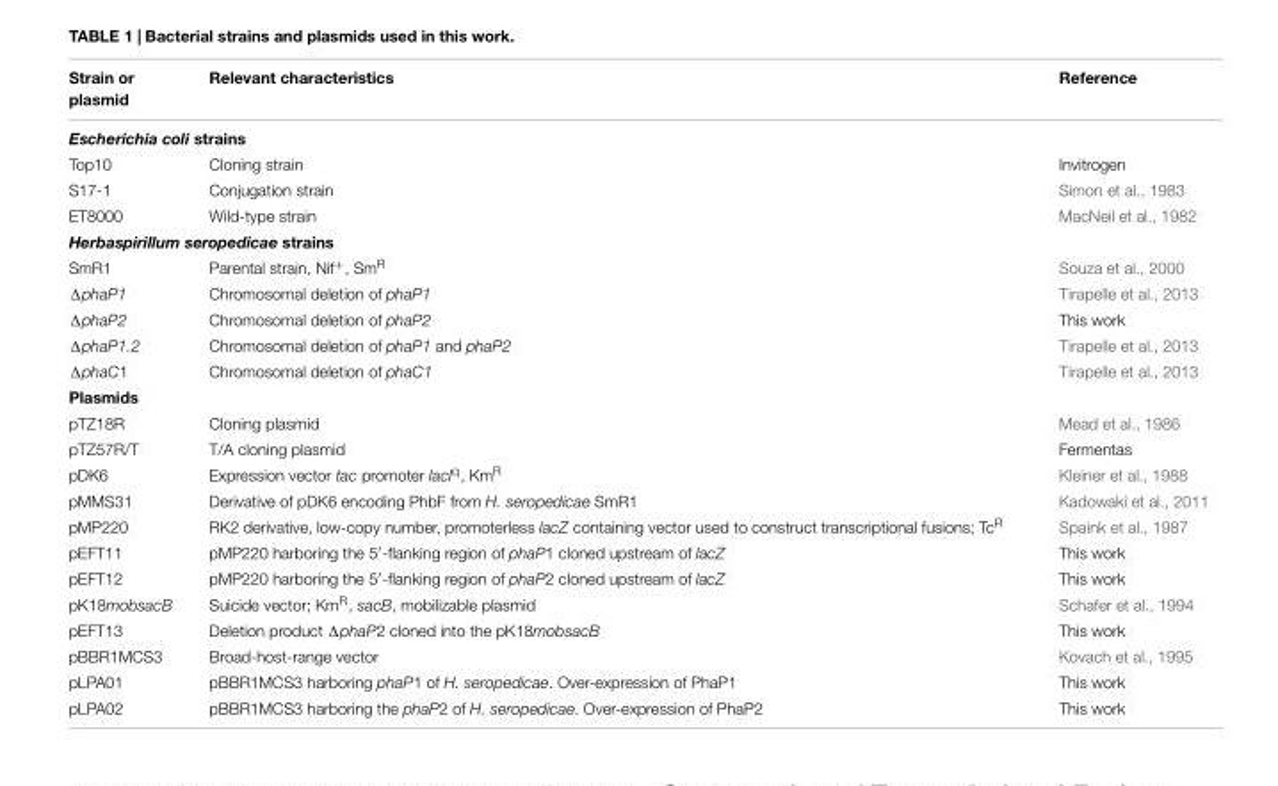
<table><thead><tr><td>Strain or plasmid</td><td>Relevant characteristics</td><td>Reference</td></tr></thead><tbody><tr><td colspan="3">Escherichia coli strains</td></tr><tr><td>Top10</td><td>Cloning strain</td><td>Invitrogen</td></tr><tr><td>S17-1</td><td>Conjugation strain</td><td>Simon et al., 1983</td></tr><tr><td>ET8000</td><td>Wild-type strain</td><td>MacNeil et al., 1982</td></tr><tr><td colspan="3">Herbaspirillum seropedicae strains</td></tr><tr><td>SmR1</td><td>Parental strain, Nif<sup>+</sup>, Sm<sup>R</sup></td><td>Souza et al., 2000</td></tr><tr><td>ΔphaP1</td><td>Chromosomal deletion of phaP1</td><td>Tirapelle et al., 2013</td></tr><tr><td>ΔphaP2</td><td>Chromosomal deletion of phaP2</td><td>This work</td></tr><tr><td>ΔphaP1.2</td><td>Chromosomal deletion of phaP1 and phaP2</td><td>Tirapelle et al., 2013</td></tr><tr><td>ΔphaC1</td><td>Chromosomal deletion of phaC1</td><td>Tirapelle et al., 2013</td></tr><tr><td colspan="3">Plasmids</td></tr><tr><td>pTZ18R</td><td>Cloning plasmid</td><td>Mead et al., 1986</td></tr><tr><td>pTZ57R/T</td><td>T/A cloning plasmid</td><td>Fermentas</td></tr><tr><td>pDK6</td><td>Expression vector tac promoter lacI<sup>q</sup>, Km<sup>R</sup></td><td>Kleiner et al., 1988</td></tr><tr><td>pMMS31</td><td>Derivative of pDK6 encoding PhbF from H. seropedicae SmR1</td><td>Kadowaki et al., 2011</td></tr><tr><td>pMP220</td><td>RK2 derivative, low-copy number, promoterless lacZ containing vector used to construct transcriptional fusions; Tc<sup>R</sup></td><td>Spaink et al., 1987</td></tr><tr><td>pEFT11</td><td>pMP220 harboring the 5′-flanking region of phaP1 cloned upstream of lacZ</td><td>This work</td></tr><tr><td>pEFT12</td><td>pMP220 harboring the 5′-flanking region of phaP2 cloned upstream of lacZ</td><td>This work</td></tr><tr><td>pK18mobsacB</td><td>Suicide vector; Km<sup>R</sup>, sacB, mobilizable plasmid</td><td>Schafer et al., 1994</td></tr><tr><td>pEFT13</td><td>Deletion product ΔphaP2 cloned into the pK18mobsacB</td><td>This work</td></tr><tr><td>pBBR1MCS3</td><td>Broad-host-range vector</td><td>Kovach et al., 1995</td></tr><tr><td>pLPA01</td><td>pBBR1MCS3 harboring phaP1 of H. seropedicae. Over-expression of PhaP1</td><td>This work</td></tr><tr><td>pLPA02</td><td>pBBR1MCS3 harboring the phaP2 of H. seropedicae. Over-expression of PhaP2</td><td>This work</td></tr></tbody></table>